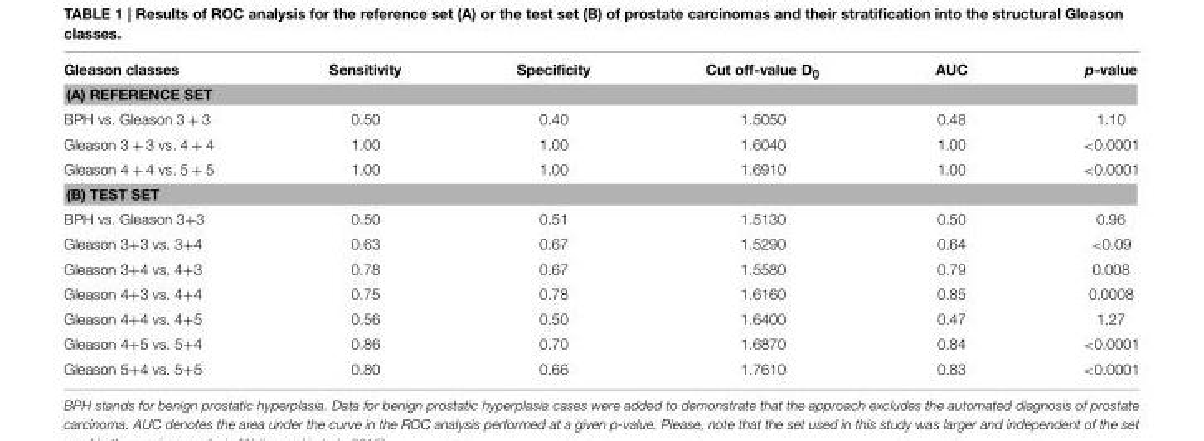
<table><thead><tr><td>Gleason classes</td><td>Sensitivity</td><td>Specificity</td><td>Cut off-value D<sub>0</sub></td><td>AUC</td><td>p-value</td></tr></thead><tbody><tr><td colspan="6">(A) REFERENCE SET</td></tr><tr><td>BPH vs. Gleason 3 + 3</td><td>0.50</td><td>0.40</td><td>1.5050</td><td>0.48</td><td>1.10</td></tr><tr><td>Gleason 3 + 3 vs. 4 + 4</td><td>1.00</td><td>1.00</td><td>1.6040</td><td>1.00</td><td>&lt;0.0001</td></tr><tr><td>Gleason 4 + 4 vs. 5 + 5</td><td>1.00</td><td>1.00</td><td>1.6910</td><td>1.00</td><td>&lt;0.0001</td></tr><tr><td colspan="6">(B) TEST SET</td></tr><tr><td>BPH vs. Gleason 3+3</td><td>0.50</td><td>0.51</td><td>1.5130</td><td>0.50</td><td>0.96</td></tr><tr><td>Gleason 3+3 vs. 3+4</td><td>0.63</td><td>0.67</td><td>1.5290</td><td>0.64</td><td>&lt;0.09</td></tr><tr><td>Gleason 3+4 vs. 4+3</td><td>0.78</td><td>0.67</td><td>1.5580</td><td>0.79</td><td>0.008</td></tr><tr><td>Gleason 4+3 vs. 4+4</td><td>0.75</td><td>0.78</td><td>1.6160</td><td>0.85</td><td>0.0008</td></tr><tr><td>Gleason 4+4 vs. 4+5</td><td>0.56</td><td>0.50</td><td>1.6400</td><td>0.47</td><td>1.27</td></tr><tr><td>Gleason 4+5 vs. 5+4</td><td>0.86</td><td>0.70</td><td>1.6870</td><td>0.84</td><td>&lt;0.0001</td></tr><tr><td>Gleason 5+4 vs. 5+5</td><td>0.80</td><td>0.66</td><td>1.7610</td><td>0.83</td><td>&lt;0.0001</td></tr></tbody></table>